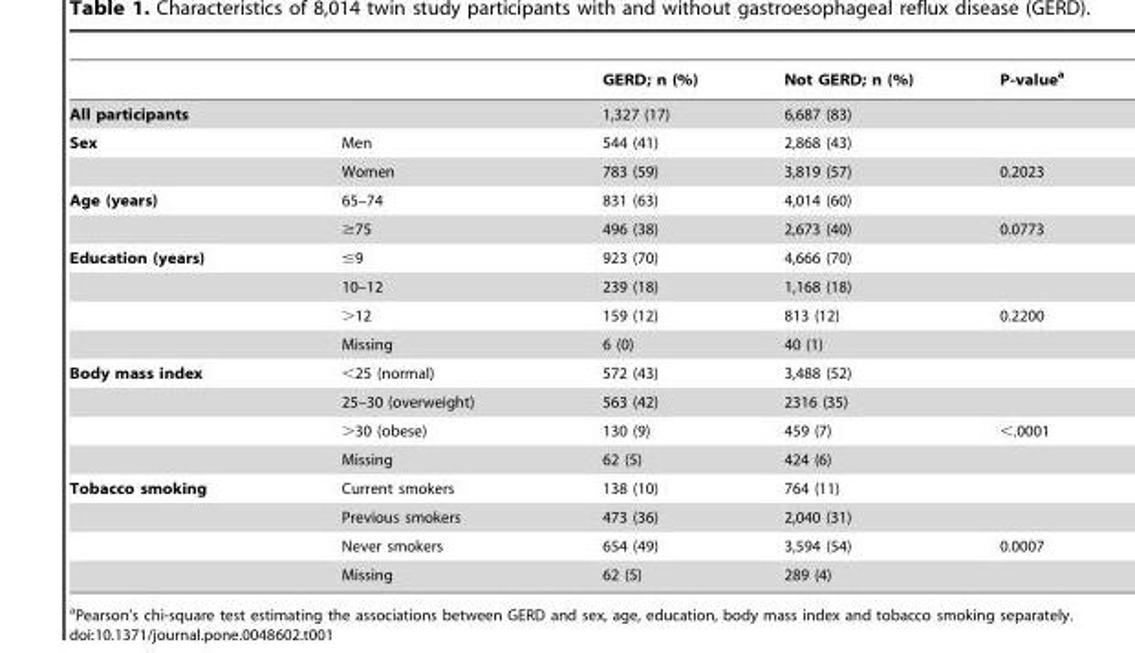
<table><thead><tr><td></td><td></td><td>GERD; n (%)</td><td>Not GERD; n (%)</td><td>P-value<sup>a</sup></td></tr></thead><tbody><tr><td colspan="2">All participants</td><td>1,327 (17)</td><td>6,687 (83)</td><td></td></tr><tr><td rowspan="2">Sex</td><td>Men</td><td>544 (41)</td><td>2,868 (43)</td><td></td></tr><tr><td>Women</td><td>783 (59)</td><td>3,819 (57)</td><td>0.2023</td></tr><tr><td rowspan="2">Age (years)</td><td>65–74</td><td>831 (63)</td><td>4,014 (60)</td><td></td></tr><tr><td>≥75</td><td>496 (38)</td><td>2,673 (40)</td><td>0.0773</td></tr><tr><td rowspan="4">Education (years)</td><td>≤9</td><td>923 (70)</td><td>4,666 (70)</td><td></td></tr><tr><td>10–12</td><td>239 (18)</td><td>1,168 (18)</td><td></td></tr><tr><td>&gt;12</td><td>159 (12)</td><td>813 (12)</td><td>0.2200</td></tr><tr><td>Missing</td><td>6 (0)</td><td>40 (1)</td><td></td></tr><tr><td rowspan="4">Body mass index</td><td>&lt;25 (normal)</td><td>572 (43)</td><td>3,488 (52)</td><td></td></tr><tr><td>25–30 (overweight)</td><td>563 (42)</td><td>2316 (35)</td><td></td></tr><tr><td>&gt;30 (obese)</td><td>130 (9)</td><td>459 (7)</td><td>&lt;.0001</td></tr><tr><td>Missing</td><td>62 (5)</td><td>424 (6)</td><td></td></tr><tr><td rowspan="4">Tobacco smoking</td><td>Current smokers</td><td>138 (10)</td><td>764 (11)</td><td></td></tr><tr><td>Previous smokers</td><td>473 (36)</td><td>2,040 (31)</td><td></td></tr><tr><td>Never smokers</td><td>654 (49)</td><td>3,594 (54)</td><td>0.0007</td></tr><tr><td>Missing</td><td>62 (5)</td><td>289 (4)</td><td></td></tr></tbody></table>